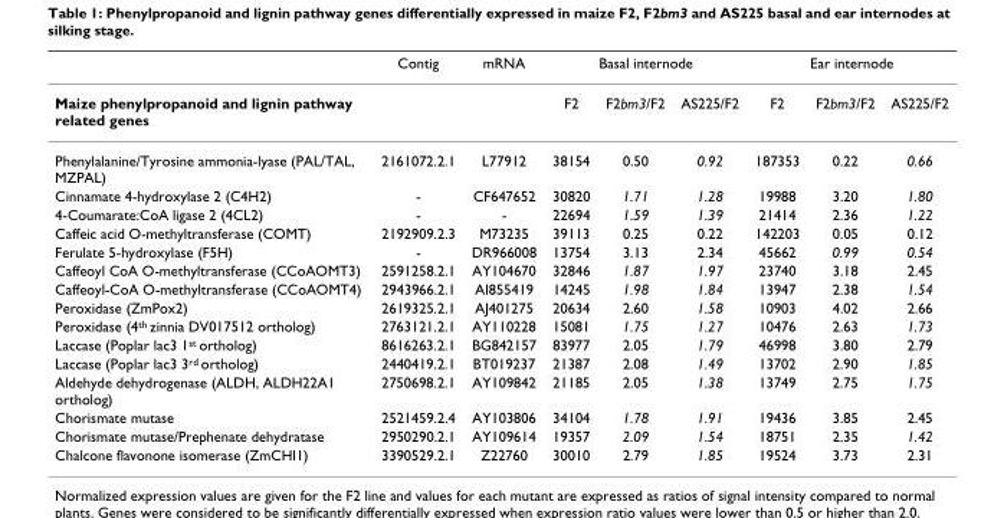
<table><thead><tr><td rowspan="2">Maize phenylpropanoid and lignin pathway related genes</td><td rowspan="2">Contig</td><td rowspan="2">mRNA</td><td colspan="3">Basal internode</td><td colspan="3">Ear internode</td></tr><tr><td>F2</td><td>F2bm3/F2</td><td>AS225/F2</td><td>F2</td><td>F2bm3/F2</td><td>AS225/F2</td></tr></thead><tbody><tr><td>Phenylalanine/Tyrosine ammonia-lyase (PAL/TAL, MZPAL)</td><td>2161072.2.1</td><td>L77912</td><td>38154</td><td>0.50</td><td>0.92</td><td>187353</td><td>0.22</td><td>0.66</td></tr><tr><td>Cinnamate 4-hydroxylase 2 (C4H2)</td><td>-</td><td>CF647652</td><td>30820</td><td>1.71</td><td>1.28</td><td>19988</td><td>3.20</td><td>1.80</td></tr><tr><td>4-Coumarate:CoA ligase 2 (4CL2)</td><td>-</td><td>-</td><td>22694</td><td>1.59</td><td>1.39</td><td>21414</td><td>2.36</td><td>1.22</td></tr><tr><td>Caffeic acid O-methyltransferase (COMT)</td><td>2192909.2.3</td><td>M73235</td><td>39113</td><td>0.25</td><td>0.22</td><td>142203</td><td>0.05</td><td>0.12</td></tr><tr><td>Ferulate 5-hydroxylase (F5H)</td><td>-</td><td>DR966008</td><td>13754</td><td>3.13</td><td>2.34</td><td>45662</td><td>0.99</td><td>0.54</td></tr><tr><td>Caffeoyl CoA O-methyltransferase (CCoAOMT3)</td><td>2591258.2.1</td><td>AY104670</td><td>32846</td><td>1.87</td><td>1.97</td><td>23740</td><td>3.18</td><td>2.45</td></tr><tr><td>Caffeoyl-CoA O-methyltransferase (CCoAOMT4)</td><td>2943966.2.1</td><td>AI855419</td><td>14245</td><td>1.98</td><td>1.84</td><td>13947</td><td>2.38</td><td>1.54</td></tr><tr><td>Peroxidase (ZmPox2)</td><td>2619325.2.1</td><td>AJ401275</td><td>20634</td><td>2.60</td><td>1.58</td><td>10903</td><td>4.02</td><td>2.66</td></tr><tr><td>Peroxidase (4<sup>th</sup> zinnia DV017512 ortholog)</td><td>2763121.2.1</td><td>AY110228</td><td>15081</td><td>1.75</td><td>1.27</td><td>10476</td><td>2.63</td><td>1.73</td></tr><tr><td>Laccase (Poplar lac3 1<sup>st</sup> ortholog)</td><td>8616263.2.1</td><td>BG842157</td><td>83977</td><td>2.05</td><td>1.79</td><td>46998</td><td>3.80</td><td>2.79</td></tr><tr><td>Laccase (Poplar lac3 3<sup>rd</sup> ortholog)</td><td>2440419.2.1</td><td>BT019237</td><td>21387</td><td>2.08</td><td>1.49</td><td>13702</td><td>2.90</td><td>1.85</td></tr><tr><td>Aldehyde dehydrogenase (ALDH, ALDH22A1 ortholog)</td><td>2750698.2.1</td><td>AY109842</td><td>21185</td><td>2.05</td><td>1.38</td><td>13749</td><td>2.75</td><td>1.75</td></tr><tr><td>Chorismate mutase</td><td>2521459.2.4</td><td>AY103806</td><td>34104</td><td>1.78</td><td>1.91</td><td>19436</td><td>3.85</td><td>2.45</td></tr><tr><td>Chorismate mutase/Prephenate dehydratase</td><td>2950290.2.1</td><td>AY109614</td><td>19357</td><td>2.09</td><td>1.54</td><td>18751</td><td>2.35</td><td>1.42</td></tr><tr><td>Chalcone flavonone isomerase (ZmCHI1)</td><td>3390529.2.1</td><td>Z22760</td><td>30010</td><td>2.79</td><td>1.85</td><td>19524</td><td>3.73</td><td>2.31</td></tr></tbody></table>